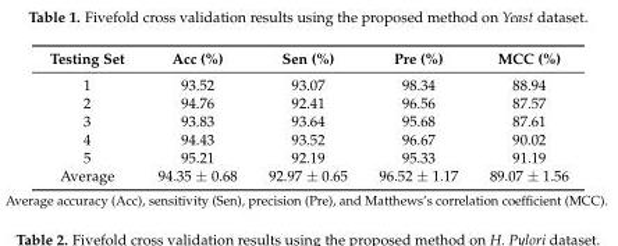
<table><thead><tr><td>Testing Set</td><td>Acc (%)</td><td>Sen (%)</td><td>Pre (%)</td><td>MCC (%)</td></tr></thead><tbody><tr><td>1</td><td>93.52</td><td>93.07</td><td>98.34</td><td>88.94</td></tr><tr><td>2</td><td>94.76</td><td>92.41</td><td>96.56</td><td>87.57</td></tr><tr><td>3</td><td>93.83</td><td>93.64</td><td>95.68</td><td>87.61</td></tr><tr><td>4</td><td>94.43</td><td>93.52</td><td>96.67</td><td>90.02</td></tr><tr><td>5</td><td>95.21</td><td>92.19</td><td>95.33</td><td>91.19</td></tr><tr><td>Average</td><td>94.35 ± 0.68</td><td>92.97 ± 0.65</td><td>96.52 ± 1.17</td><td>89.07 ± 1.56</td></tr></tbody></table>